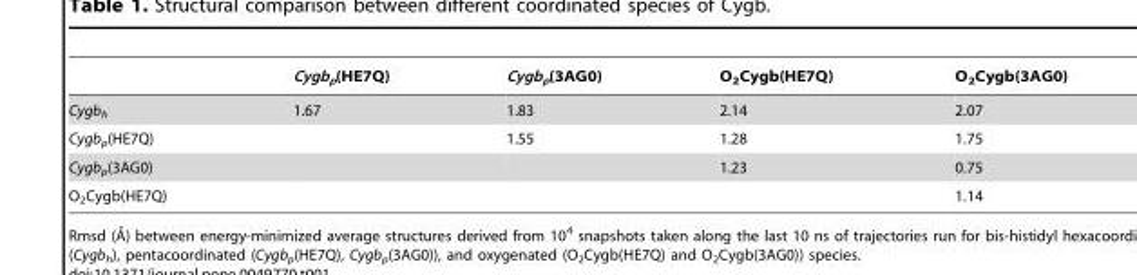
<table><thead><tr><td></td><td>Cygb<sub>p</sub>(HE7Q)</td><td>Cygb<sub>p</sub>(3AG0)</td><td>O<sub>2</sub>Cygb(HE7Q)</td><td>O<sub>2</sub>Cygb(3AG0)</td></tr></thead><tbody><tr><td>Cygb<sub>h</sub></td><td>1.67</td><td>1.83</td><td>2.14</td><td>2.07</td></tr><tr><td>Cygb<sub>p</sub>(HE7Q)</td><td></td><td>1.55</td><td>1.28</td><td>1.75</td></tr><tr><td>Cygb<sub>p</sub>(3AG0)</td><td></td><td></td><td>1.23</td><td>0.75</td></tr><tr><td>O<sub>2</sub>Cygb(HE7Q)</td><td></td><td></td><td></td><td>1.14</td></tr></tbody></table>